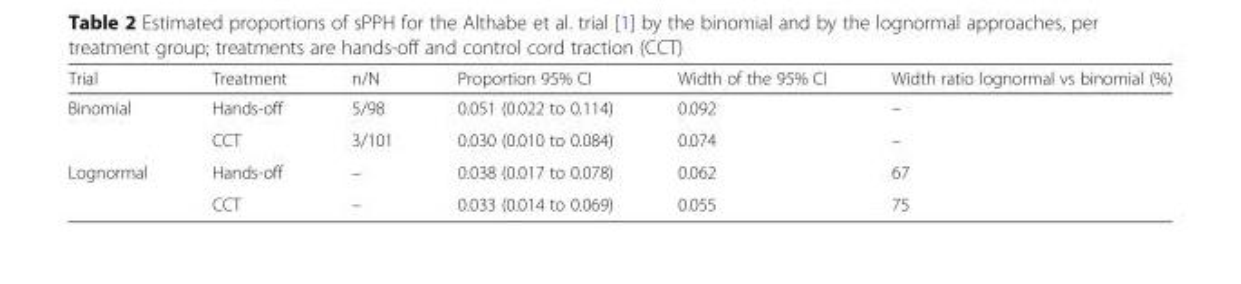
<table><thead><tr><td>Trial</td><td>Treatment</td><td>n/N</td><td>Proportion 95% CI</td><td>Width of the 95% CI</td><td>Width ratio lognormal vs binomial (%)</td></tr></thead><tbody><tr><td rowspan="2">Binomial</td><td>Hands-off</td><td>5/98</td><td>0.051 (0.022 to 0.114)</td><td>0.092</td><td>–</td></tr><tr><td>CCT</td><td>3/101</td><td>0.030 (0.010 to 0.084)</td><td>0.074</td><td>–</td></tr><tr><td rowspan="2">Lognormal</td><td>Hands-off</td><td>–</td><td>0.038 (0.017 to 0.078)</td><td>0.062</td><td>67</td></tr><tr><td>CCT</td><td>–</td><td>0.033 (0.014 to 0.069)</td><td>0.055</td><td>75</td></tr></tbody></table>